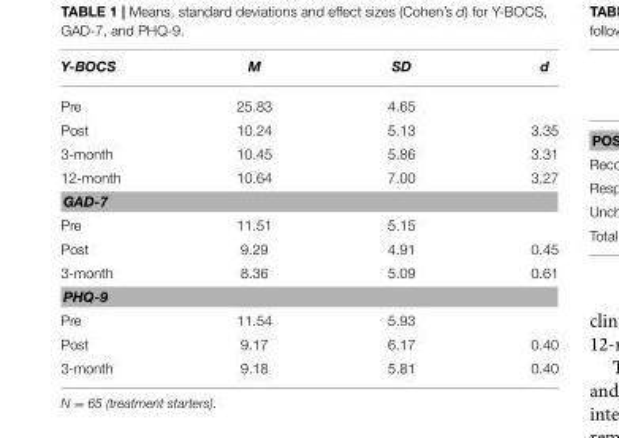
<table><thead><tr><td>Y-BOCS</td><td>M</td><td>SD</td><td>d</td></tr></thead><tbody><tr><td>Pre</td><td>25.83</td><td>4.65</td><td></td></tr><tr><td>Post</td><td>10.24</td><td>5.13</td><td>3.35</td></tr><tr><td>3-month</td><td>10.45</td><td>5.86</td><td>3.31</td></tr><tr><td>12-month</td><td>10.64</td><td>7.00</td><td>3.27</td></tr><tr><td colspan="4">GAD-7</td></tr><tr><td>Pre</td><td>11.51</td><td>5.15</td><td></td></tr><tr><td>Post</td><td>9.29</td><td>4.91</td><td>0.45</td></tr><tr><td>3-month</td><td>8.36</td><td>5.09</td><td>0.61</td></tr><tr><td colspan="4">PHQ-9</td></tr><tr><td>Pre</td><td>11.54</td><td>5.93</td><td></td></tr><tr><td>Post</td><td>9.17</td><td>6.17</td><td>0.40</td></tr><tr><td>3-month</td><td>9.18</td><td>5.81</td><td>0.40</td></tr></tbody></table>